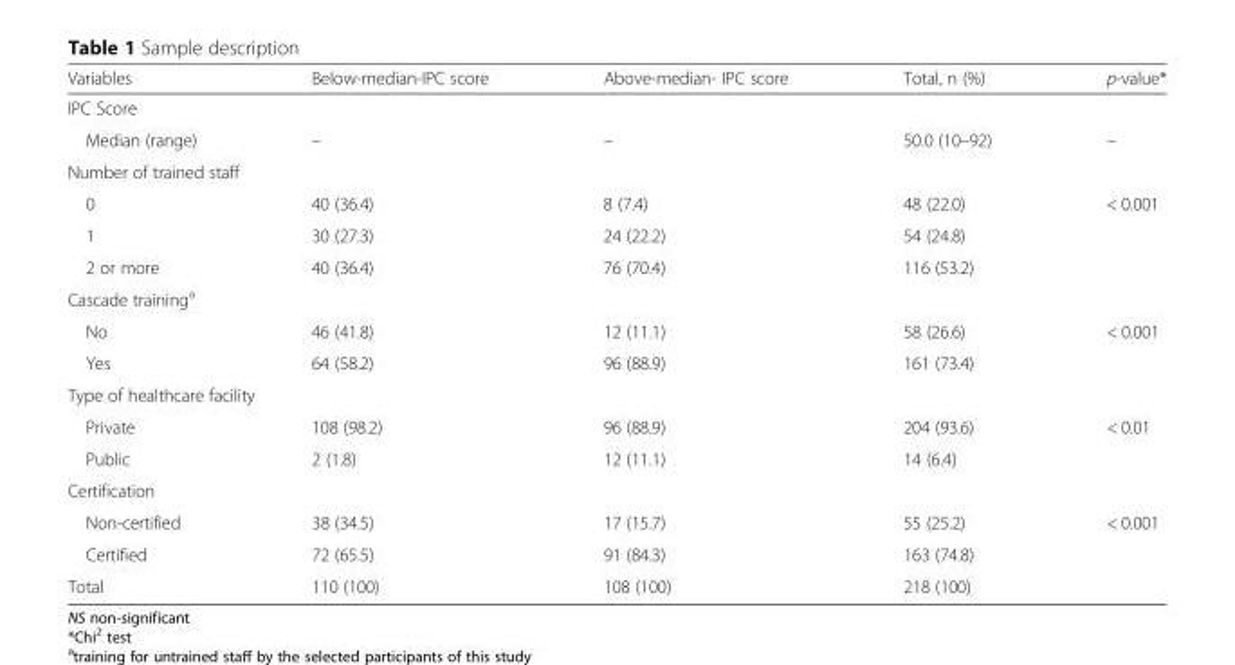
<table><thead><tr><td>Variables</td><td>Below-median-IPC score</td><td>Above-median- IPC score</td><td>Total, n (%)</td><td>p-value*</td></tr></thead><tbody><tr><td colspan="5">IPC Score</td></tr><tr><td>Median (range)</td><td>–</td><td>–</td><td>50.0 (10–92)</td><td>–</td></tr><tr><td colspan="5">Number of trained staff</td></tr><tr><td>0</td><td>40 (36.4)</td><td>8 (7.4)</td><td>48 (22.0)</td><td>&lt; 0.001</td></tr><tr><td>1</td><td>30 (27.3)</td><td>24 (22.2)</td><td>54 (24.8)</td><td></td></tr><tr><td>2 or more</td><td>40 (36.4)</td><td>76 (70.4)</td><td>116 (53.2)</td><td></td></tr><tr><td colspan="5">Cascade training<sup>a</sup></td></tr><tr><td>No</td><td>46 (41.8)</td><td>12 (11.1)</td><td>58 (26.6)</td><td>&lt; 0.001</td></tr><tr><td>Yes</td><td>64 (58.2)</td><td>96 (88.9)</td><td>161 (73.4)</td><td></td></tr><tr><td colspan="5">Type of healthcare facility</td></tr><tr><td>Private</td><td>108 (98.2)</td><td>96 (88.9)</td><td>204 (93.6)</td><td>&lt; 0.01</td></tr><tr><td>Public</td><td>2 (1.8)</td><td>12 (11.1)</td><td>14 (6.4)</td><td></td></tr><tr><td colspan="5">Certification</td></tr><tr><td>Non-certified</td><td>38 (34.5)</td><td>17 (15.7)</td><td>55 (25.2)</td><td>&lt; 0.001</td></tr><tr><td>Certified</td><td>72 (65.5)</td><td>91 (84.3)</td><td>163 (74.8)</td><td></td></tr><tr><td>Total</td><td>110 (100)</td><td>108 (100)</td><td>218 (100)</td><td></td></tr></tbody></table>